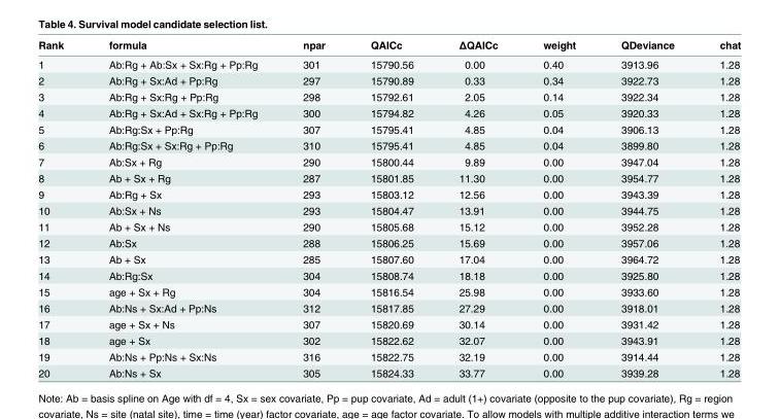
<table><thead><tr><td>Rank</td><td>formula</td><td>npar</td><td>QAICc</td><td>ΔQAICc</td><td>weight</td><td>QDeviance</td><td>chat</td></tr></thead><tbody><tr><td>1</td><td>Ab:Rg + Ab:Sx + Sx:Rg + Pp:Rg</td><td>301</td><td>15790.56</td><td>0.00</td><td>0.40</td><td>3913.96</td><td>1.28</td></tr><tr><td>2</td><td>Ab:Rg + Sx:Ad + Pp:Rg</td><td>297</td><td>15790.89</td><td>0.33</td><td>0.34</td><td>3922.73</td><td>1.28</td></tr><tr><td>3</td><td>Ab:Rg + Sx:Rg + Pp:Rg</td><td>298</td><td>15792.61</td><td>2.05</td><td>0.14</td><td>3922.34</td><td>1.28</td></tr><tr><td>4</td><td>Ab:Rg + Sx:Ad + Sx:Rg + Pp:Rg</td><td>300</td><td>15794.82</td><td>4.26</td><td>0.05</td><td>3920.33</td><td>1.28</td></tr><tr><td>5</td><td>Ab:Rg:Sx + Pp:Rg</td><td>307</td><td>15795.41</td><td>4.85</td><td>0.04</td><td>3906.13</td><td>1.28</td></tr><tr><td>6</td><td>Ab:Rg:Sx + Sx:Rg + Pp:Rg</td><td>310</td><td>15795.41</td><td>4.85</td><td>0.04</td><td>3899.80</td><td>1.28</td></tr><tr><td>7</td><td>Ab:Sx + Rg</td><td>290</td><td>15800.44</td><td>9.89</td><td>0.00</td><td>3947.04</td><td>1.28</td></tr><tr><td>8</td><td>Ab + Sx + Rg</td><td>287</td><td>15801.85</td><td>11.30</td><td>0.00</td><td>3954.77</td><td>1.28</td></tr><tr><td>9</td><td>Ab:Rg + Sx</td><td>293</td><td>15803.12</td><td>12.56</td><td>0.00</td><td>3943.39</td><td>1.28</td></tr><tr><td>10</td><td>Ab:Sx + Ns</td><td>293</td><td>15804.47</td><td>13.91</td><td>0.00</td><td>3944.75</td><td>1.28</td></tr><tr><td>11</td><td>Ab + Sx + Ns</td><td>290</td><td>15805.68</td><td>15.12</td><td>0.00</td><td>3952.28</td><td>1.28</td></tr><tr><td>12</td><td>Ab:Sx</td><td>288</td><td>15806.25</td><td>15.69</td><td>0.00</td><td>3957.06</td><td>1.28</td></tr><tr><td>13</td><td>Ab + Sx</td><td>285</td><td>15807.60</td><td>17.04</td><td>0.00</td><td>3964.72</td><td>1.28</td></tr><tr><td>14</td><td>Ab:Rg:Sx</td><td>304</td><td>15808.74</td><td>18.18</td><td>0.00</td><td>3925.80</td><td>1.28</td></tr><tr><td>15</td><td>age + Sx + Rg</td><td>304</td><td>15816.54</td><td>25.98</td><td>0.00</td><td>3933.60</td><td>1.28</td></tr><tr><td>16</td><td>Ab:Ns + Sx:Ad + Pp:Ns</td><td>312</td><td>15817.85</td><td>27.29</td><td>0.00</td><td>3918.01</td><td>1.28</td></tr><tr><td>17</td><td>age + Sx + Ns</td><td>307</td><td>15820.69</td><td>30.14</td><td>0.00</td><td>3931.42</td><td>1.28</td></tr><tr><td>18</td><td>age + Sx</td><td>302</td><td>15822.62</td><td>32.07</td><td>0.00</td><td>3943.91</td><td>1.28</td></tr><tr><td>19</td><td>Ab:Ns + Pp:Ns + Sx:Ns</td><td>316</td><td>15822.75</td><td>32.19</td><td>0.00</td><td>3914.44</td><td>1.28</td></tr><tr><td>20</td><td>Ab:Ns + Sx</td><td>305</td><td>15824.33</td><td>33.77</td><td>0.00</td><td>3939.28</td><td>1.28</td></tr></tbody></table>